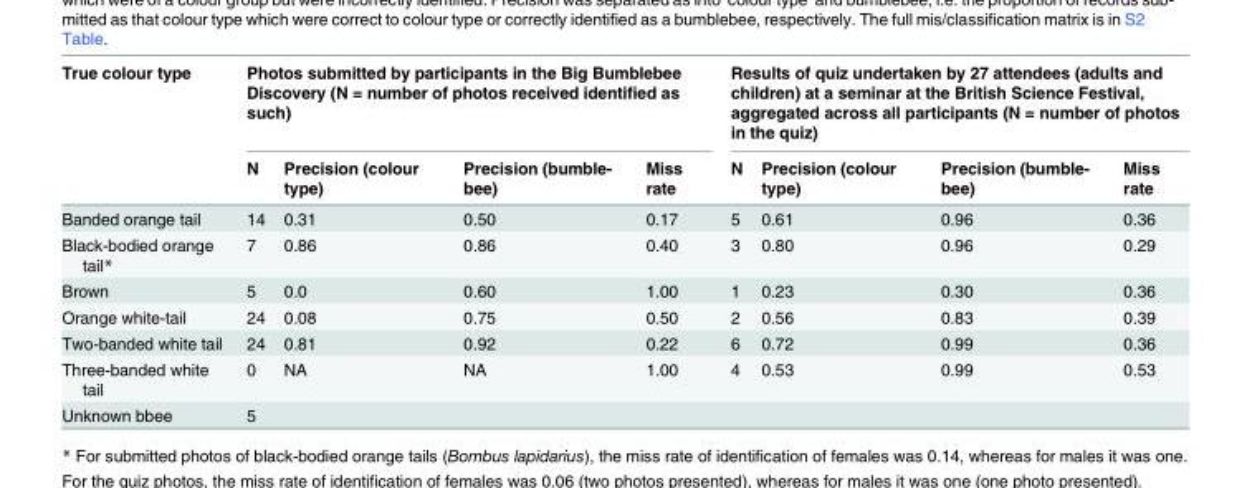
<table><thead><tr><td rowspan="2">True colour type</td><td colspan="4">Photos submitted by participants in the Big Bumblebee Discovery (N = number of photos received identified as such)</td><td colspan="4">Results of quiz undertaken by 27 attendees (adults and children) at a seminar at the British Science Festival, aggregated across all participants (N = number of photos in the quiz)</td></tr><tr><td>N</td><td>Precision (colour type)</td><td>Precision (bumble- bee)</td><td>Miss rate</td><td>N</td><td>Precision (colour type)</td><td>Precision (bumble- bee)</td><td>Miss rate</td></tr></thead><tbody><tr><td>Banded orange tail</td><td>14</td><td>0.31</td><td>0.50</td><td>0.17</td><td>5</td><td>0.61</td><td>0.96</td><td>0.36</td></tr><tr><td>Black-bodied orange tail*</td><td>7</td><td>0.86</td><td>0.86</td><td>0.40</td><td>3</td><td>0.80</td><td>0.96</td><td>0.29</td></tr><tr><td>Brown</td><td>5</td><td>0.0</td><td>0.60</td><td>1.00</td><td>1</td><td>0.23</td><td>0.30</td><td>0.36</td></tr><tr><td>Orange white-tail</td><td>24</td><td>0.08</td><td>0.75</td><td>0.50</td><td>2</td><td>0.56</td><td>0.83</td><td>0.39</td></tr><tr><td>Two-banded white tail</td><td>24</td><td>0.81</td><td>0.92</td><td>0.22</td><td>6</td><td>0.72</td><td>0.99</td><td>0.36</td></tr><tr><td>Three-banded white tail</td><td>0</td><td>NA</td><td>NA</td><td>1.00</td><td>4</td><td>0.53</td><td>0.99</td><td>0.53</td></tr><tr><td>Unknown bbee</td><td>5</td><td></td><td></td><td></td><td></td><td></td><td></td><td></td></tr></tbody></table>